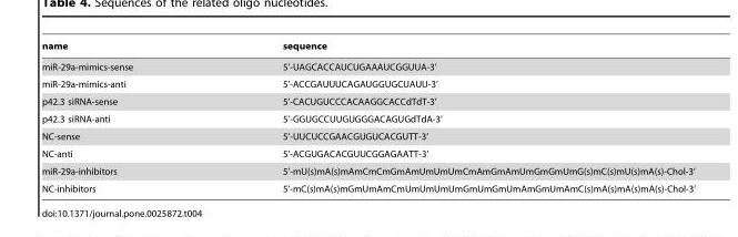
<table><thead><tr><td>name</td><td>sequence</td></tr></thead><tbody><tr><td>miR-29a-mimics-sense</td><td>5’-UAGCACCAUCUGAAAUCGGUUA-3’</td></tr><tr><td>miR-29a-mimics-anti</td><td>5’-ACCGAUUUCAGAUGGUGCUAUU-3’</td></tr><tr><td>p42.3 siRNA-sense</td><td>5’-CACUGUCCCACAAGGCACCdTdT-3’</td></tr><tr><td>p42.3 siRNA-anti</td><td>5’-GGUGCCUUGUGGGACAGUGdTdA-3’</td></tr><tr><td>NC-sense</td><td>5’-UUCUCCGAACGUGUCACGUTT-3’</td></tr><tr><td>NC-anti</td><td>5’-ACGUGACACGUUCGGAGAATT-3’</td></tr><tr><td>miR-29a-inhibitors</td><td>5’-mU(s)mA(s)mAmCmCmGmAmUmUmUmCmAmGmAmUmGmGmUmG(s)mC(s)mU(s)mA(s)-Chol-3’</td></tr><tr><td>NC-inhibitors</td><td>5’-mC(s)mA(s)mGmUmAmCmUmUmUmUmGmUmGmUmAmGmUmAmC(s)mA(s)mA(s)mA(s)-Chol-3’</td></tr></tbody></table>